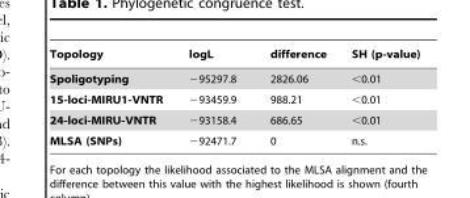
<table><thead><tr><td>Topology</td><td>logL</td><td>difference</td><td>SH (p-value)</td></tr></thead><tbody><tr><td>Spoligotyping</td><td>−95297.8</td><td>2826.06</td><td>&lt;0.01</td></tr><tr><td>15-loci-MIRU1-VNTR</td><td>−93459.9</td><td>988.21</td><td>&lt;0.01</td></tr><tr><td>24-loci-MIRU-VNTR</td><td>−93158.4</td><td>686.65</td><td>&lt;0.01</td></tr><tr><td>MLSA (SNPs)</td><td>−92471.7</td><td>0</td><td>n.s.</td></tr></tbody></table>